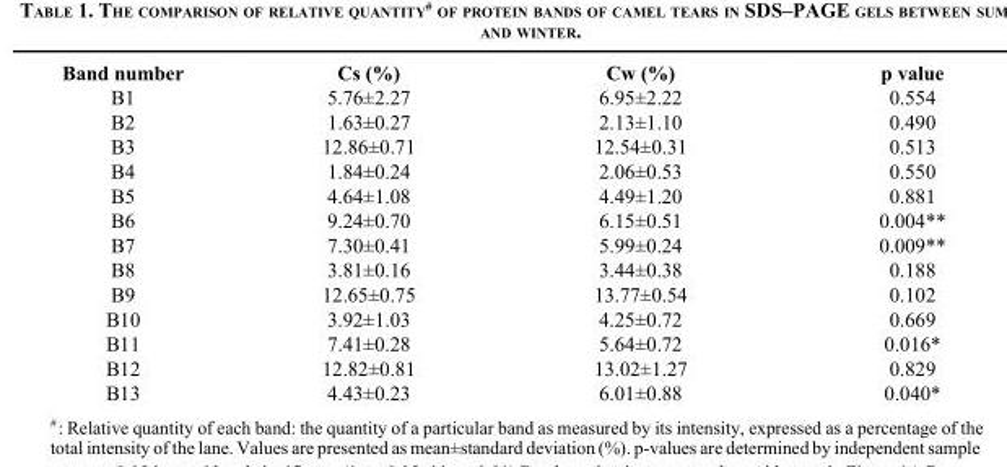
<table><thead><tr><td>Band number</td><td>Cs (%)</td><td>Cw (%)</td><td>p value</td></tr></thead><tbody><tr><td>B1</td><td>5.76±2.27</td><td>6.95±2.22</td><td>0.554</td></tr><tr><td>B2</td><td>1.63±0.27</td><td>2.13±1.10</td><td>0.490</td></tr><tr><td>B3</td><td>12.86±0.71</td><td>12.54±0.31</td><td>0.513</td></tr><tr><td>B4</td><td>1.84±0.24</td><td>2.06±0.53</td><td>0.550</td></tr><tr><td>B5</td><td>4.64±1.08</td><td>4.49±1.20</td><td>0.881</td></tr><tr><td>B6</td><td>9.24±0.70</td><td>6.15±0.51</td><td>0.004**</td></tr><tr><td>B7</td><td>7.30±0.41</td><td>5.99±0.24</td><td>0.009**</td></tr><tr><td>B8</td><td>3.81±0.16</td><td>3.44±0.38</td><td>0.188</td></tr><tr><td>B9</td><td>12.65±0.75</td><td>13.77±0.54</td><td>0.102</td></tr><tr><td>B10</td><td>3.92±1.03</td><td>4.25±0.72</td><td>0.669</td></tr><tr><td>B11</td><td>7.41±0.28</td><td>5.64±0.72</td><td>0.016*</td></tr><tr><td>B12</td><td>12.82±0.81</td><td>13.02±1.27</td><td>0.829</td></tr><tr><td>B13</td><td>4.43±0.23</td><td>6.01±0.88</td><td>0.040*</td></tr></tbody></table>